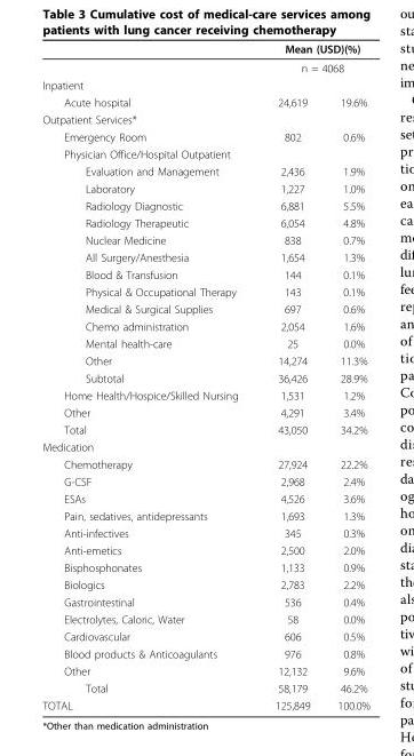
<table><thead><tr><td rowspan="3">Inpatient</td><td rowspan="2" colspan="2">Mean (USD)(%) n = 4068</td></tr><tr></tr><tr><td></td><td></td></tr></thead><tbody><tr><td>Acute hospital</td><td>24,619</td><td>19.6%</td></tr><tr><td colspan="3">Outpatient Services*</td></tr><tr><td>Emergency Room</td><td>802</td><td>0.6%</td></tr><tr><td colspan="3">Physician Office/Hospital Outpatient</td></tr><tr><td>Evaluation and Management</td><td>2,436</td><td>1.9%</td></tr><tr><td>Laboratory</td><td>1,227</td><td>1.0%</td></tr><tr><td>Radiology Diagnostic</td><td>6,881</td><td>5.5%</td></tr><tr><td>Radiology Therapeutic</td><td>6,054</td><td>4.8%</td></tr><tr><td>Nuclear Medicine</td><td>838</td><td>0.7%</td></tr><tr><td>All Surgery/Anesthesia</td><td>1,654</td><td>1.3%</td></tr><tr><td>Blood &amp; Transfusion</td><td>144</td><td>0.1%</td></tr><tr><td>Physical &amp; Occupational Therapy</td><td>143</td><td>0.1%</td></tr><tr><td>Medical &amp; Surgical Supplies</td><td>697</td><td>0.6%</td></tr><tr><td>Chemo administration</td><td>2,054</td><td>1.6%</td></tr><tr><td>Mental health-care</td><td>25</td><td>0.0%</td></tr><tr><td>Other</td><td>14,274</td><td>11.3%</td></tr><tr><td>Subtotal</td><td>36,426</td><td>28.9%</td></tr><tr><td>Home Health/Hospice/Skilled Nursing</td><td>1,531</td><td>1.2%</td></tr><tr><td>Other</td><td>4,291</td><td>3.4%</td></tr><tr><td>Total</td><td>43,050</td><td>34.2%</td></tr><tr><td colspan="3">Medication</td></tr><tr><td>Chemotherapy</td><td>27,924</td><td>22.2%</td></tr><tr><td>G-CSF</td><td>2,968</td><td>2.4%</td></tr><tr><td>ESAs</td><td>4,526</td><td>3.6%</td></tr><tr><td>Pain, sedatives, antidepressants</td><td>1,693</td><td>1.3%</td></tr><tr><td>Anti-infectives</td><td>345</td><td>0.3%</td></tr><tr><td>Anti-emetics</td><td>2,500</td><td>2.0%</td></tr><tr><td>Bisphosphonates</td><td>1,133</td><td>0.9%</td></tr><tr><td>Biologics</td><td>2,783</td><td>2.2%</td></tr><tr><td>Gastrointestinal</td><td>536</td><td>0.4%</td></tr><tr><td>Electrolytes, Caloric, Water</td><td>58</td><td>0.0%</td></tr><tr><td>Cardiovascular</td><td>606</td><td>0.5%</td></tr><tr><td>Blood products &amp; Anticoagulants</td><td>976</td><td>0.8%</td></tr><tr><td>Other</td><td>12,132</td><td>9.6%</td></tr><tr><td>Total</td><td>58,179</td><td>46.2%</td></tr><tr><td>TOTAL</td><td>125,849</td><td>100.0%</td></tr></tbody></table>